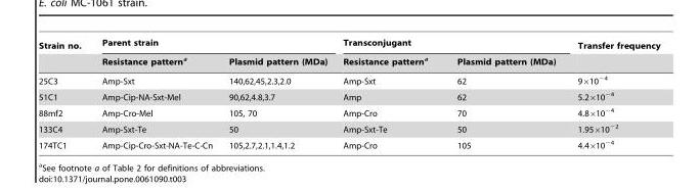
<table><thead><tr><td rowspan="2">Strain no.</td><td colspan="2">Parent strain</td><td colspan="2">Transconjugant</td><td rowspan="2">Transfer frequency</td></tr><tr><td>Resistance pattern<sup>a</sup></td><td>Plasmid pattern (MDa)</td><td>Resistance pattern<sup>a</sup></td><td>Plasmid pattern (MDa)</td></tr></thead><tbody><tr><td>25C3</td><td>Amp-Sxt</td><td>140,62,45,2.3,2.0</td><td>Amp-Sxt</td><td>62</td><td>9×10<sup>−4</sup></td></tr><tr><td>51C1</td><td>Amp-Cip-NA-Sxt-Mel</td><td>90,62,4.8,3.7</td><td>Amp</td><td>62</td><td>5.2×10<sup>−4</sup></td></tr><tr><td>88mf2</td><td>Amp-Cro-Mel</td><td>105, 70</td><td>Amp-Cro</td><td>70</td><td>4.8×10<sup>−4</sup></td></tr><tr><td>133C4</td><td>Amp-Sxt-Te</td><td>50</td><td>Amp-Sxt-Te</td><td>50</td><td>1.95×10<sup>−2</sup></td></tr><tr><td>174TC1</td><td>Amp-Cip-Cro-Sxt-NA-Te-C-Cn</td><td>105,2.7,2.1,1.4,1.2</td><td>Amp-Cro</td><td>105</td><td>4.4×10<sup>−4</sup></td></tr></tbody></table>